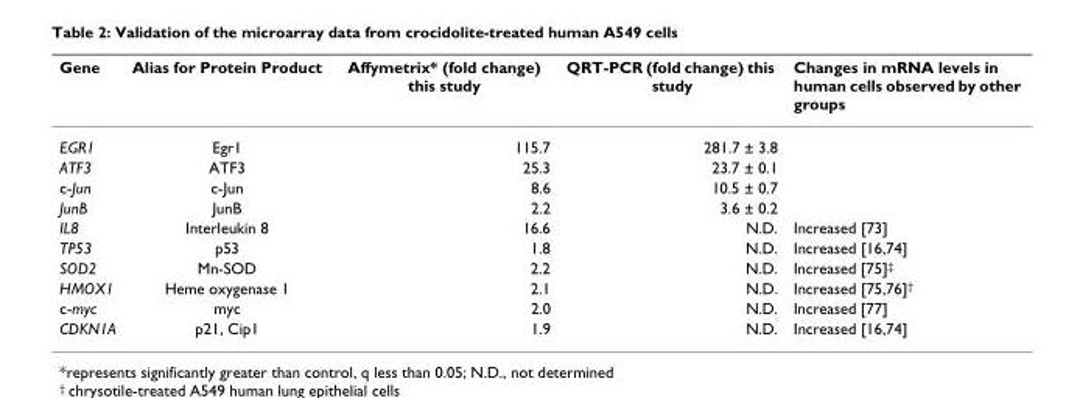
<table><thead><tr><td>Gene</td><td>Alias for Protein Product</td><td>Affymetrix* (fold change) this study</td><td>QRT-PCR (fold change) this study</td><td>Changes in mRNA levels in human cells observed by other groups</td></tr></thead><tbody><tr><td>EGR1</td><td>Egr1</td><td>115.7</td><td>281.7 ± 3.8</td><td></td></tr><tr><td>ATF3</td><td>ATF3</td><td>25.3</td><td>23.7 ± 0.1</td><td></td></tr><tr><td>c-Jun</td><td>c-Jun</td><td>8.6</td><td>10.5 ± 0.7</td><td></td></tr><tr><td>JunB</td><td>JunB</td><td>2.2</td><td>3.6 ± 0.2</td><td></td></tr><tr><td>IL8</td><td>Interleukin 8</td><td>16.6</td><td>N.D.</td><td>Increased [73]</td></tr><tr><td>TP53</td><td>p53</td><td>1.8</td><td>N.D.</td><td>Increased [16,74]</td></tr><tr><td>SOD2</td><td>Mn-SOD</td><td>2.2</td><td>N.D.</td><td>Increased [75]<sup>‡</sup></td></tr><tr><td>HMOX1</td><td>Heme oxygenase 1</td><td>2.1</td><td>N.D.</td><td>Increased [75,76]<sup>†</sup></td></tr><tr><td>c-myc</td><td>myc</td><td>2.0</td><td>N.D.</td><td>Increased [77]</td></tr><tr><td>CDKN1A</td><td>p21, Cip1</td><td>1.9</td><td>N.D.</td><td>Increased [16,74]</td></tr></tbody></table>